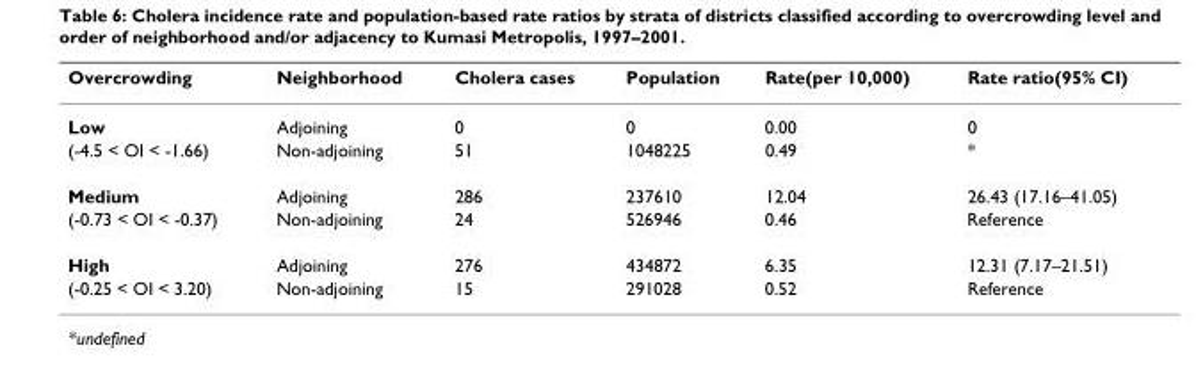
<table><thead><tr><td>Overcrowding</td><td>Neighborhood</td><td>Cholera cases</td><td>Population</td><td>Rate(per 10,000)</td><td>Rate ratio(95% CI)</td></tr></thead><tbody><tr><td>Low</td><td>Adjoining</td><td>0</td><td>0</td><td>0.00</td><td>0</td></tr><tr><td>(-4.5 &lt; OI &lt; -1.66)</td><td>Non-adjoining</td><td>51</td><td>1048225</td><td>0.49</td><td>*</td></tr><tr><td>Medium</td><td>Adjoining</td><td>286</td><td>237610</td><td>12.04</td><td>26.43 (17.16–41.05)</td></tr><tr><td>(-0.73 &lt; OI &lt; -0.37)</td><td>Non-adjoining</td><td>24</td><td>526946</td><td>0.46</td><td>Reference</td></tr><tr><td>High</td><td>Adjoining</td><td>276</td><td>434872</td><td>6.35</td><td>12.31 (7.17–21.51)</td></tr><tr><td>(-0.25 &lt; OI &lt; 3.20)</td><td>Non-adjoining</td><td>15</td><td>291028</td><td>0.52</td><td>Reference</td></tr></tbody></table>